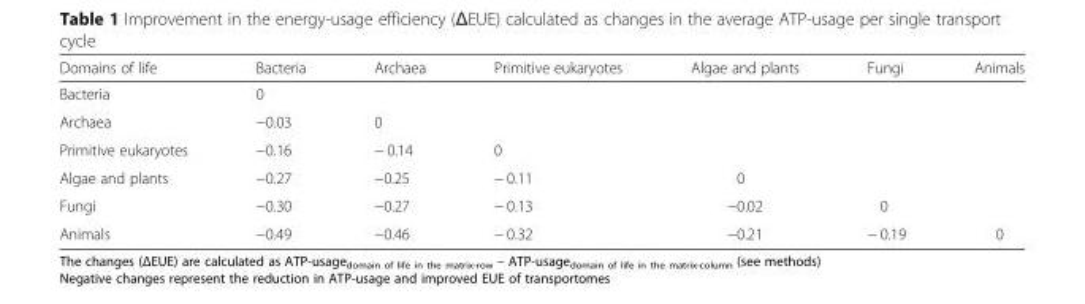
<table><thead><tr><td>Domains of life</td><td>Bacteria</td><td>Archaea</td><td>Primitive eukaryotes</td><td>Algae and plants</td><td>Fungi</td><td>Animals</td></tr></thead><tbody><tr><td>Bacteria</td><td>0</td><td></td><td></td><td></td><td></td><td></td></tr><tr><td>Archaea</td><td>−0.03</td><td>0</td><td></td><td></td><td></td><td></td></tr><tr><td>Primitive eukaryotes</td><td>−0.16</td><td>− 0.14</td><td>0</td><td></td><td></td><td></td></tr><tr><td>Algae and plants</td><td>−0.27</td><td>−0.25</td><td>− 0.11</td><td>0</td><td></td><td></td></tr><tr><td>Fungi</td><td>−0.30</td><td>−0.27</td><td>− 0.13</td><td>−0.02</td><td>0</td><td></td></tr><tr><td>Animals</td><td>−0.49</td><td>−0.46</td><td>− 0.32</td><td>−0.21</td><td>− 0.19</td><td>0</td></tr></tbody></table>